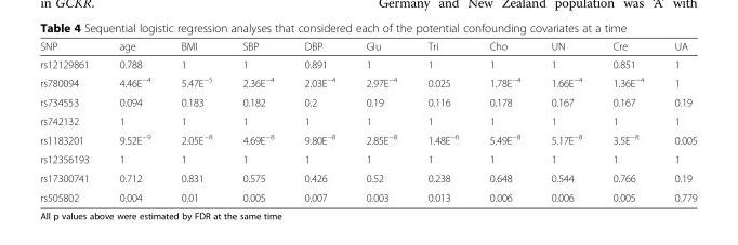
<table><thead><tr><td>SNP</td><td>age</td><td>BMI</td><td>SBP</td><td>DBP</td><td>Glu</td><td>Tri</td><td>Cho</td><td>UN</td><td>Cre</td><td>UA</td></tr></thead><tbody><tr><td>rs12129861</td><td>0.788</td><td>1</td><td>1</td><td>0.891</td><td>1</td><td>1</td><td>1</td><td>1</td><td>0.851</td><td>1</td></tr><tr><td>rs780094</td><td>4.46E<sup>−4</sup></td><td>5.47E<sup>−5</sup></td><td>2.36E<sup>−4</sup></td><td>2.03E<sup>−4</sup></td><td>2.97E<sup>−4</sup></td><td>0.025</td><td>1.78E<sup>−4</sup></td><td>1.66E<sup>−4</sup></td><td>1.36E<sup>−4</sup></td><td>1</td></tr><tr><td>rs734553</td><td>0.094</td><td>0.183</td><td>0.182</td><td>0.2</td><td>0.19</td><td>0.116</td><td>0.178</td><td>0.167</td><td>0.167</td><td>0.19</td></tr><tr><td>rs742132</td><td>1</td><td>1</td><td>1</td><td>1</td><td>1</td><td>1</td><td>1</td><td>1</td><td>1</td><td>1</td></tr><tr><td>rs1183201</td><td>9.52E<sup>−9</sup></td><td>2.05E<sup>−8</sup></td><td>4.69E<sup>−8</sup></td><td>9.80E<sup>−8</sup></td><td>2.85E<sup>−8</sup></td><td>1.48E<sup>−6</sup></td><td>5.49E<sup>−8</sup></td><td>5.17E<sup>−8</sup></td><td>3.5E<sup>−8</sup></td><td>0.005</td></tr><tr><td>rs12356193</td><td>1</td><td>1</td><td>1</td><td>1</td><td>1</td><td>1</td><td>1</td><td>1</td><td>1</td><td>1</td></tr><tr><td>rs17300741</td><td>0.712</td><td>0.831</td><td>0.575</td><td>0.426</td><td>0.52</td><td>0.238</td><td>0.648</td><td>0.544</td><td>0.766</td><td>0.19</td></tr><tr><td>rs505802</td><td>0.004</td><td>0.01</td><td>0.005</td><td>0.007</td><td>0.003</td><td>0.013</td><td>0.006</td><td>0.006</td><td>0.005</td><td>0.779</td></tr></tbody></table>